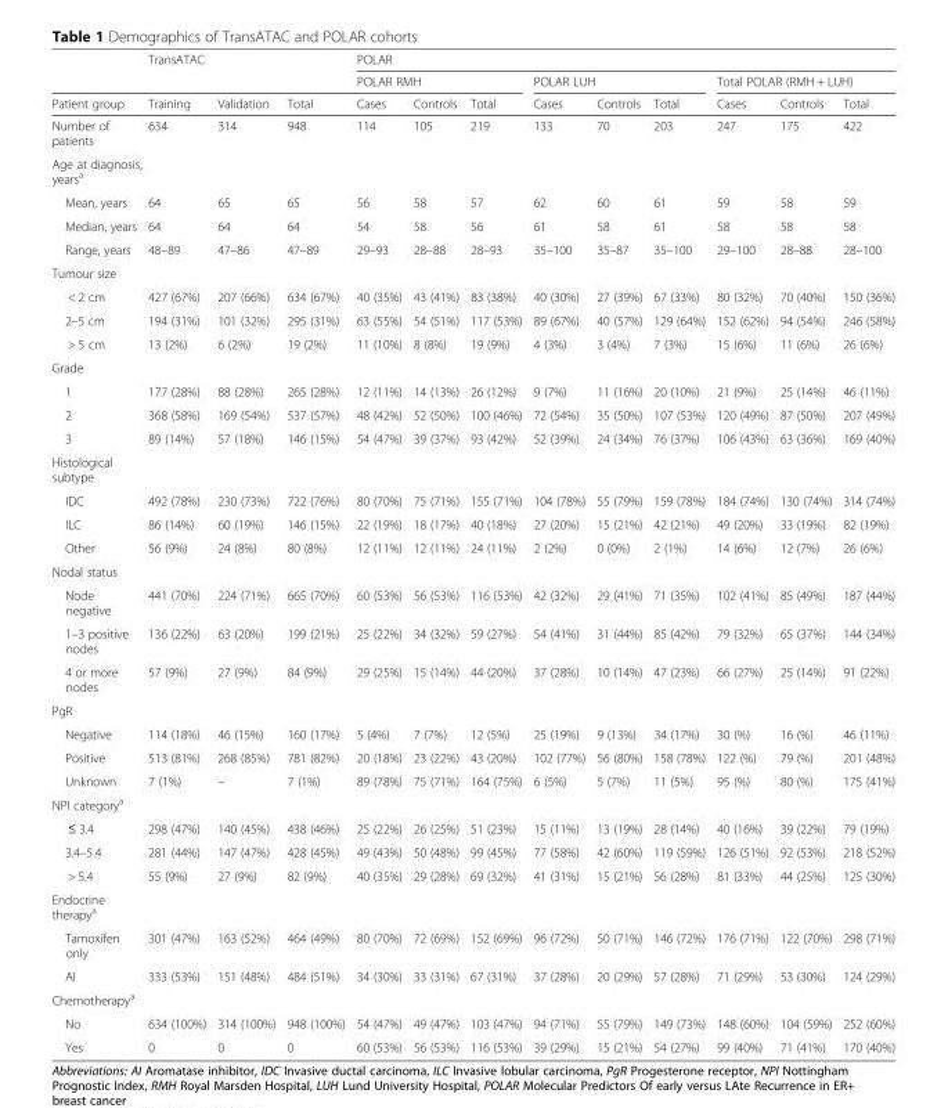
<table><thead><tr><td rowspan="3">Patient group</td><td rowspan="2" colspan="3">TransATAC</td><td colspan="9">POLAR</td></tr><tr><td colspan="3">POLAR RMH</td><td colspan="3">POLAR LUH</td><td colspan="3">Total POLAR (RMH + LUH)</td></tr><tr><td>Training</td><td>Validation</td><td>Total</td><td>Cases</td><td>Controls</td><td>Total</td><td>Cases</td><td>Controls</td><td>Total</td><td>Cases</td><td>Controls</td><td>Total</td></tr></thead><tbody><tr><td>Number of patients</td><td>634</td><td>314</td><td>948</td><td>114</td><td>105</td><td>219</td><td>133</td><td>70</td><td>203</td><td>247</td><td>175</td><td>422</td></tr><tr><td colspan="13">Age at diagnosis, years<sup>a</sup></td></tr><tr><td>Mean, years</td><td>64</td><td>65</td><td>65</td><td>56</td><td>58</td><td>57</td><td>62</td><td>60</td><td>61</td><td>59</td><td>58</td><td>59</td></tr><tr><td>Median, years</td><td>64</td><td>64</td><td>64</td><td>54</td><td>58</td><td>56</td><td>61</td><td>58</td><td>61</td><td>58</td><td>58</td><td>58</td></tr><tr><td>Range, years</td><td>48–89</td><td>47–86</td><td>47–89</td><td>29–93</td><td>28–88</td><td>28–93</td><td>35–100</td><td>35–87</td><td>35–100</td><td>29–100</td><td>28–88</td><td>28–100</td></tr><tr><td colspan="13">Tumour size</td></tr><tr><td>&lt; 2 cm</td><td>427 (67%)</td><td>207 (66%)</td><td>634 (67%)</td><td>40 (35%)</td><td>43 (41%)</td><td>83 (38%)</td><td>40 (30%)</td><td>27 (39%)</td><td>67 (33%)</td><td>80 (32%)</td><td>70 (40%)</td><td>150 (36%)</td></tr><tr><td>2–5 cm</td><td>194 (31%)</td><td>101 (32%)</td><td>295 (31%)</td><td>63 (55%)</td><td>54 (51%)</td><td>117 (53%)</td><td>89 (67%)</td><td>40 (57%)</td><td>129 (64%)</td><td>152 (62%)</td><td>94 (54%)</td><td>246 (58%)</td></tr><tr><td>&gt; 5 cm</td><td>13 (2%)</td><td>6 (2%)</td><td>19 (2%)</td><td>11 (10%)</td><td>8 (8%)</td><td>19 (9%)</td><td>4 (3%)</td><td>3 (4%)</td><td>7 (3%)</td><td>15 (6%)</td><td>11 (6%)</td><td>26 (6%)</td></tr><tr><td colspan="13">Grade</td></tr><tr><td>1</td><td>177 (28%)</td><td>88 (28%)</td><td>265 (28%)</td><td>12 (11%)</td><td>14 (13%)</td><td>26 (12%)</td><td>9 (7%)</td><td>11 (16%)</td><td>20 (10%)</td><td>21 (9%)</td><td>25 (14%)</td><td>46 (11%)</td></tr><tr><td>2</td><td>368 (58%)</td><td>169 (54%)</td><td>537 (57%)</td><td>48 (42%)</td><td>52 (50%)</td><td>100 (46%)</td><td>72 (54%)</td><td>35 (50%)</td><td>107 (53%)</td><td>120 (49%)</td><td>87 (50%)</td><td>207 (49%)</td></tr><tr><td>3</td><td>89 (14%)</td><td>57 (18%)</td><td>146 (15%)</td><td>54 (47%)</td><td>39 (37%)</td><td>93 (42%)</td><td>52 (39%)</td><td>24 (34%)</td><td>76 (37%)</td><td>106 (43%)</td><td>63 (36%)</td><td>169 (40%)</td></tr><tr><td colspan="13">Histological subtype</td></tr><tr><td>IDC</td><td>492 (78%)</td><td>230 (73%)</td><td>722 (76%)</td><td>80 (70%)</td><td>75 (71%)</td><td>155 (71%)</td><td>104 (78%)</td><td>55 (79%)</td><td>159 (78%)</td><td>184 (74%)</td><td>130 (74%)</td><td>314 (74%)</td></tr><tr><td>ILC</td><td>86 (14%)</td><td>60 (19%)</td><td>146 (15%)</td><td>22 (19%)</td><td>18 (17%)</td><td>40 (18%)</td><td>27 (20%)</td><td>15 (21%)</td><td>42 (21%)</td><td>49 (20%)</td><td>33 (19%)</td><td>82 (19%)</td></tr><tr><td>Other</td><td>56 (9%)</td><td>24 (8%)</td><td>80 (8%)</td><td>12 (11%)</td><td>12 (11%)</td><td>24 (11%)</td><td>2 (2%)</td><td>0 (0%)</td><td>2 (1%)</td><td>14 (6%)</td><td>12 (7%)</td><td>26 (6%)</td></tr><tr><td colspan="13">Nodal status</td></tr><tr><td>Node negative</td><td>441 (70%)</td><td>224 (71%)</td><td>665 (70%)</td><td>60 (53%)</td><td>56 (53%)</td><td>116 (53%)</td><td>42 (32%)</td><td>29 (41%)</td><td>71 (35%)</td><td>102 (41%)</td><td>85 (49%)</td><td>187 (44%)</td></tr><tr><td>1–3 positive nodes</td><td>136 (22%)</td><td>63 (20%)</td><td>199 (21%)</td><td>25 (22%)</td><td>34 (32%)</td><td>59 (27%)</td><td>54 (41%)</td><td>31 (44%)</td><td>85 (42%)</td><td>79 (32%)</td><td>65 (37%)</td><td>144 (34%)</td></tr><tr><td>4 or more nodes</td><td>57 (9%)</td><td>27 (9%)</td><td>84 (9%)</td><td>29 (25%)</td><td>15 (14%)</td><td>44 (20%)</td><td>37 (28%)</td><td>10 (14%)</td><td>47 (23%)</td><td>66 (27%)</td><td>25 (14%)</td><td>91 (22%)</td></tr><tr><td colspan="13">PgR</td></tr><tr><td>Negative</td><td>114 (18%)</td><td>46 (15%)</td><td>160 (17%)</td><td>5 (4%)</td><td>7 (7%)</td><td>12 (5%)</td><td>25 (19%)</td><td>9 (13%)</td><td>34 (17%)</td><td>30 (%)</td><td>16 (%)</td><td>46 (11%)</td></tr><tr><td>Positive</td><td>513 (81%)</td><td>268 (85%)</td><td>781 (82%)</td><td>20 (18%)</td><td>23 (22%)</td><td>43 (20%)</td><td>102 (77%)</td><td>56 (80%)</td><td>158 (78%)</td><td>122 (%)</td><td>79 (%)</td><td>201 (48%)</td></tr><tr><td>Unknown</td><td>7 (1%)</td><td>–</td><td>7 (1%)</td><td>89 (78%)</td><td>75 (71%)</td><td>164 (75%)</td><td>6 (5%)</td><td>5 (7%)</td><td>11 (5%)</td><td>95 (%)</td><td>80 (%)</td><td>175 (41%)</td></tr><tr><td colspan="13">NPI category<sup>a</sup></td></tr><tr><td>≤ 3.4</td><td>298 (47%)</td><td>140 (45%)</td><td>438 (46%)</td><td>25 (22%)</td><td>26 (25%)</td><td>51 (23%)</td><td>15 (11%)</td><td>13 (19%)</td><td>28 (14%)</td><td>40 (16%)</td><td>39 (22%)</td><td>79 (19%)</td></tr><tr><td>3.4–5.4</td><td>281 (44%)</td><td>147 (47%)</td><td>428 (45%)</td><td>49 (43%)</td><td>50 (48%)</td><td>99 (45%)</td><td>77 (58%)</td><td>42 (60%)</td><td>119 (59%)</td><td>126 (51%)</td><td>92 (53%)</td><td>218 (52%)</td></tr><tr><td>&gt; 5.4</td><td>55 (9%)</td><td>27 (9%)</td><td>82 (9%)</td><td>40 (35%)</td><td>29 (28%)</td><td>69 (32%)</td><td>41 (31%)</td><td>15 (21%)</td><td>56 (28%)</td><td>81 (33%)</td><td>44 (25%)</td><td>125 (30%)</td></tr><tr><td colspan="13">Endocrine therapy<sup>a</sup></td></tr><tr><td>Tamoxifen only</td><td>301 (47%)</td><td>163 (52%)</td><td>464 (49%)</td><td>80 (70%)</td><td>72 (69%)</td><td>152 (69%)</td><td>96 (72%)</td><td>50 (71%)</td><td>146 (72%)</td><td>176 (71%)</td><td>122 (70%)</td><td>298 (71%)</td></tr><tr><td>AI</td><td>333 (53%)</td><td>151 (48%)</td><td>484 (51%)</td><td>34 (30%)</td><td>33 (31%)</td><td>67 (31%)</td><td>37 (28%)</td><td>20 (29%)</td><td>57 (28%)</td><td>71 (29%)</td><td>53 (30%)</td><td>124 (29%)</td></tr><tr><td colspan="13">Chemotherapy<sup>a</sup></td></tr><tr><td>No</td><td>634 (100%)</td><td>314 (100%)</td><td>948 (100%)</td><td>54 (47%)</td><td>49 (47%)</td><td>103 (47%)</td><td>94 (71%)</td><td>55 (79%)</td><td>149 (73%)</td><td>148 (60%)</td><td>104 (59%)</td><td>252 (60%)</td></tr><tr><td>Yes</td><td>0</td><td>0</td><td>0</td><td>60 (53%)</td><td>56 (53%)</td><td>116 (53%)</td><td>39 (29%)</td><td>15 (21%)</td><td>54 (27%)</td><td>99 (40%)</td><td>71 (41%)</td><td>170 (40%)</td></tr></tbody></table>